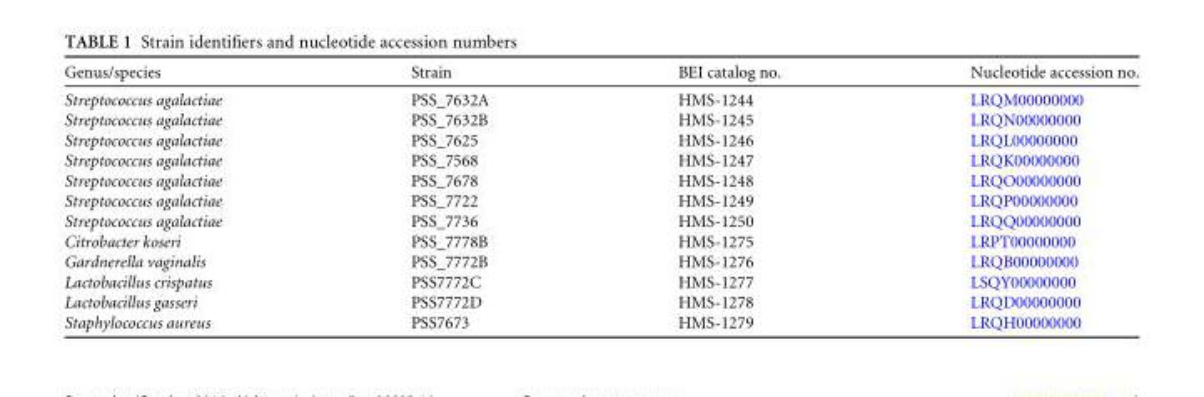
<table><thead><tr><td>Genus/species</td><td>Strain</td><td>BEI catalog no.</td><td>Nucleotide accession no.</td></tr></thead><tbody><tr><td>Streptococcus agalactiae</td><td>PSS_7632A</td><td>HMS-1244</td><td>LRQM00000000</td></tr><tr><td>Streptococcus agalactiae</td><td>PSS_7632B</td><td>HMS-1245</td><td>LRQN00000000</td></tr><tr><td>Streptococcus agalactiae</td><td>PSS_7625</td><td>HMS-1246</td><td>LRQL00000000</td></tr><tr><td>Streptococcus agalactiae</td><td>PSS_7568</td><td>HMS-1247</td><td>LRQK00000000</td></tr><tr><td>Streptococcus agalactiae</td><td>PSS_7678</td><td>HMS-1248</td><td>LRQO00000000</td></tr><tr><td>Streptococcus agalactiae</td><td>PSS_7722</td><td>HMS-1249</td><td>LRQP00000000</td></tr><tr><td>Streptococcus agalactiae</td><td>PSS_7736</td><td>HMS-1250</td><td>LRQQ00000000</td></tr><tr><td>Citrobacter koseri</td><td>PSS_7778B</td><td>HMS-1275</td><td>LRPT00000000</td></tr><tr><td>Gardnerella vaginalis</td><td>PSS_7772B</td><td>HMS-1276</td><td>LRQB00000000</td></tr><tr><td>Lactobacillus crispatus</td><td>PSS7772C</td><td>HMS-1277</td><td>LSQY00000000</td></tr><tr><td>Lactobacillus gasseri</td><td>PSS7772D</td><td>HMS-1278</td><td>LRQD00000000</td></tr><tr><td>Staphylococcus aureus</td><td>PSS7673</td><td>HMS-1279</td><td>LRQH00000000</td></tr></tbody></table>